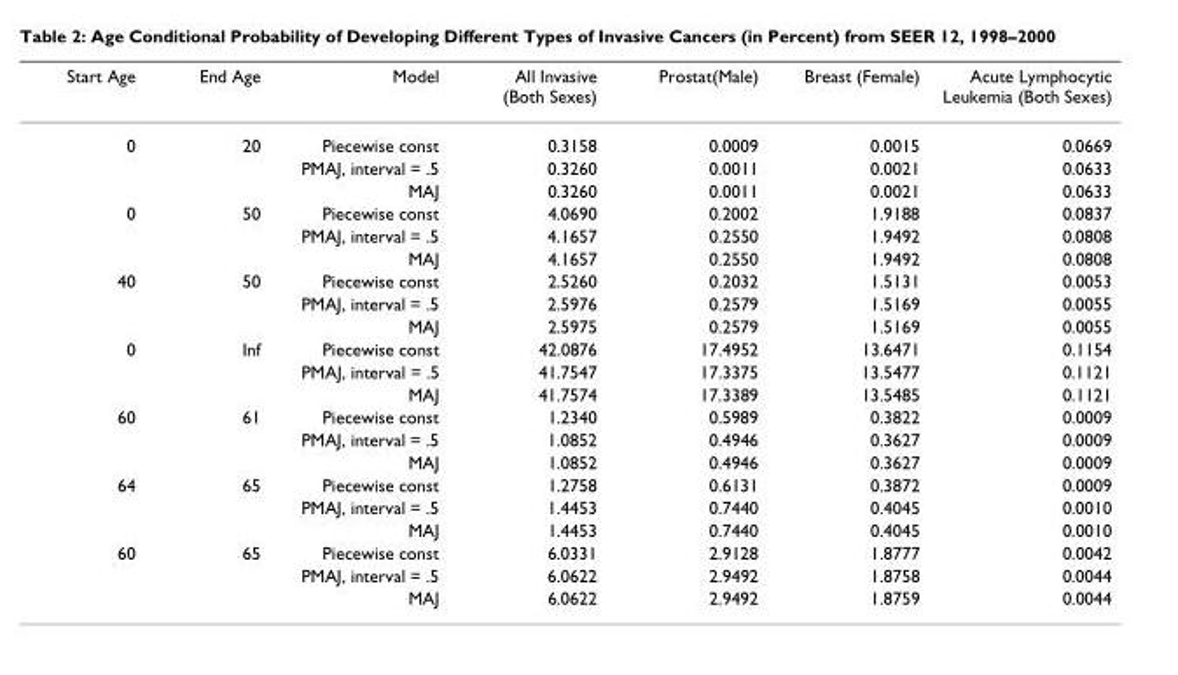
<table><thead><tr><td>Start Age</td><td>End Age</td><td>Model</td><td>All Invasive (Both Sexes)</td><td>Prostat(Male)</td><td>Breast (Female)</td><td>Acute Lymphocytic Leukemia (Both Sexes)</td></tr></thead><tbody><tr><td rowspan="3">0</td><td>20</td><td>Piecewise const</td><td>0.3158</td><td>0.0009</td><td>0.0015</td><td>0.0669</td></tr><tr><td></td><td>PMAJ, interval = .5</td><td>0.3260</td><td>0.0011</td><td>0.0021</td><td>0.0633</td></tr><tr><td></td><td>MAJ</td><td>0.3260</td><td>0.0011</td><td>0.0021</td><td>0.0633</td></tr><tr><td rowspan="3">0</td><td>50</td><td>Piecewise const</td><td>4.0690</td><td>0.2002</td><td>1.9188</td><td>0.0837</td></tr><tr><td></td><td>PMAJ, interval = .5</td><td>4.1657</td><td>0.2550</td><td>1.9492</td><td>0.0808</td></tr><tr><td></td><td>MAJ</td><td>4.1657</td><td>0.2550</td><td>1.9492</td><td>0.0808</td></tr><tr><td rowspan="3">40</td><td>50</td><td>Piecewise const</td><td>2.5260</td><td>0.2032</td><td>1.5131</td><td>0.0053</td></tr><tr><td></td><td>PMAJ, interval = .5</td><td>2.5976</td><td>0.2579</td><td>1.5169</td><td>0.0055</td></tr><tr><td></td><td>MAJ</td><td>2.5975</td><td>0.2579</td><td>1.5169</td><td>0.0055</td></tr><tr><td rowspan="3">0</td><td>Inf</td><td>Piecewise const</td><td>42.0876</td><td>17.4952</td><td>13.6471</td><td>0.1154</td></tr><tr><td></td><td>PMAJ, interval = .5</td><td>41.7547</td><td>17.3375</td><td>13.5477</td><td>0.1121</td></tr><tr><td></td><td>MAJ</td><td>41.7574</td><td>17.3389</td><td>13.5485</td><td>0.1121</td></tr><tr><td rowspan="3">60</td><td>61</td><td>Piecewise const</td><td>1.2340</td><td>0.5989</td><td>0.3822</td><td>0.0009</td></tr><tr><td></td><td>PMAJ, interval = .5</td><td>1.0852</td><td>0.4946</td><td>0.3627</td><td>0.0009</td></tr><tr><td></td><td>MAJ</td><td>1.0852</td><td>0.4946</td><td>0.3627</td><td>0.0009</td></tr><tr><td rowspan="3">64</td><td>65</td><td>Piecewise const</td><td>1.2758</td><td>0.6131</td><td>0.3872</td><td>0.0009</td></tr><tr><td></td><td>PMAJ, interval = .5</td><td>1.4453</td><td>0.7440</td><td>0.4045</td><td>0.0010</td></tr><tr><td></td><td>MAJ</td><td>1.4453</td><td>0.7440</td><td>0.4045</td><td>0.0010</td></tr><tr><td rowspan="3">60</td><td>65</td><td>Piecewise const</td><td>6.0331</td><td>2.9128</td><td>1.8777</td><td>0.0042</td></tr><tr><td></td><td>PMAJ, interval = .5</td><td>6.0622</td><td>2.9492</td><td>1.8758</td><td>0.0044</td></tr><tr><td></td><td>MAJ</td><td>6.0622</td><td>2.9492</td><td>1.8759</td><td>0.0044</td></tr></tbody></table>